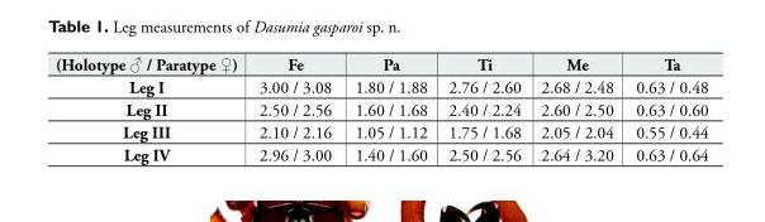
<table><tbody><tr><td>(Holotype ♂ / Paratype ♀)</td><td>Fe</td><td>Pa</td><td>Ti</td><td>Me</td><td>Ta</td></tr><tr><td>Leg I</td><td>3.00 / 3.08</td><td>1.80 / 1.88</td><td>2.76 / 2.60</td><td>2.68 / 2.48</td><td>0.63 / 0.48</td></tr><tr><td>Leg II</td><td>2.50 / 2.56</td><td>1.60 / 1.68</td><td>2.40 / 2.24</td><td>2.60 / 2.50</td><td>0.63 / 0.60</td></tr><tr><td>Leg III</td><td>2.10 / 2.16</td><td>1.05 / 1.12</td><td>1.75 / 1.68</td><td>2.05 / 2.04</td><td>0.55 / 0.44</td></tr><tr><td>Leg IV</td><td>2.96 / 3.00</td><td>1.40 / 1.60</td><td>2.50 / 2.56</td><td>2.64 / 3.20</td><td>0.63 / 0.64</td></tr></tbody></table>